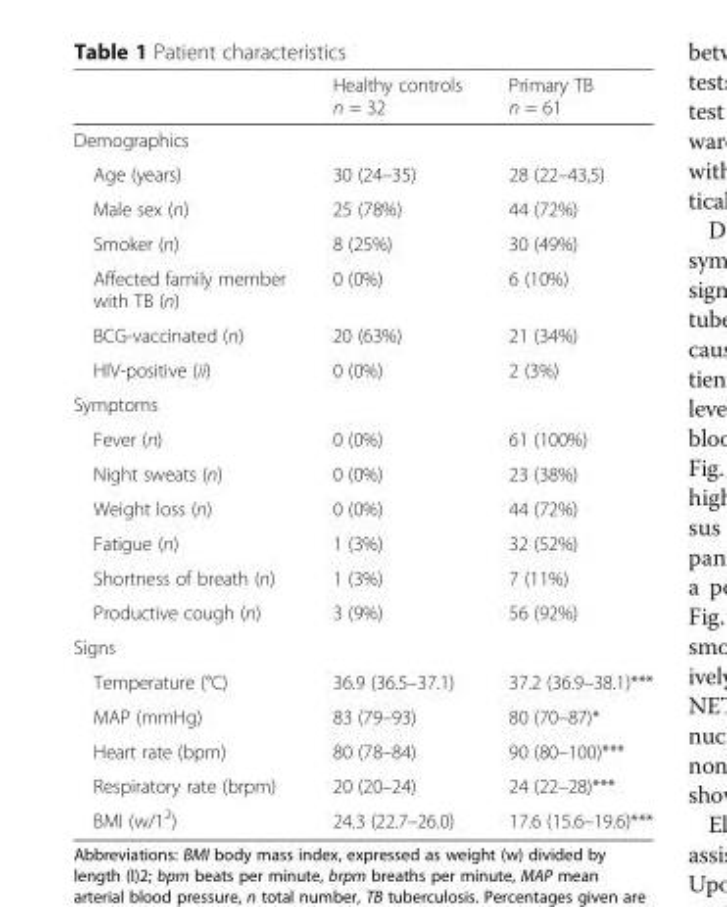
<table><thead><tr><td></td><td>Healthy controls n = 32</td><td>Primary TB n = 61</td></tr></thead><tbody><tr><td colspan="3">Demographics</td></tr><tr><td>Age (years)</td><td>30 (24–35)</td><td>28 (22–43,5)</td></tr><tr><td>Male sex (n)</td><td>25 (78%)</td><td>44 (72%)</td></tr><tr><td>Smoker (n)</td><td>8 (25%)</td><td>30 (49%)</td></tr><tr><td>Affected family member with TB (n)</td><td>0 (0%)</td><td>6 (10%)</td></tr><tr><td>BCG-vaccinated (n)</td><td>20 (63%)</td><td>21 (34%)</td></tr><tr><td>HIV-positive (ii)</td><td>0 (0%)</td><td>2 (3%)</td></tr><tr><td colspan="3">Symptoms</td></tr><tr><td>Fever (n)</td><td>0 (0%)</td><td>61 (100%)</td></tr><tr><td>Night sweats (n)</td><td>0 (0%)</td><td>23 (38%)</td></tr><tr><td>Weight loss (n)</td><td>0 (0%)</td><td>44 (72%)</td></tr><tr><td>Fatigue (n)</td><td>1 (3%)</td><td>32 (52%)</td></tr><tr><td>Shortness of breath (n)</td><td>1 (3%)</td><td>7 (11%)</td></tr><tr><td>Productive cough (n)</td><td>3 (9%)</td><td>56 (92%)</td></tr><tr><td colspan="3">Signs</td></tr><tr><td>Temperature (°C)</td><td>36.9 (36.5–37.1)</td><td>37.2 (36.9–38.1)***</td></tr><tr><td>MAP (mmHg)</td><td>83 (79–93)</td><td>80 (70–87)*</td></tr><tr><td>Heart rate (bpm)</td><td>80 (78–84)</td><td>90 (80–100)***</td></tr><tr><td>Respiratory rate (brpm)</td><td>20 (20–24)</td><td>24 (22–28)***</td></tr><tr><td>BMI (w/1<sup>2</sup>)</td><td>24.3 (22.7–26.0)</td><td>17.6 (15.6–19.6)***</td></tr></tbody></table>